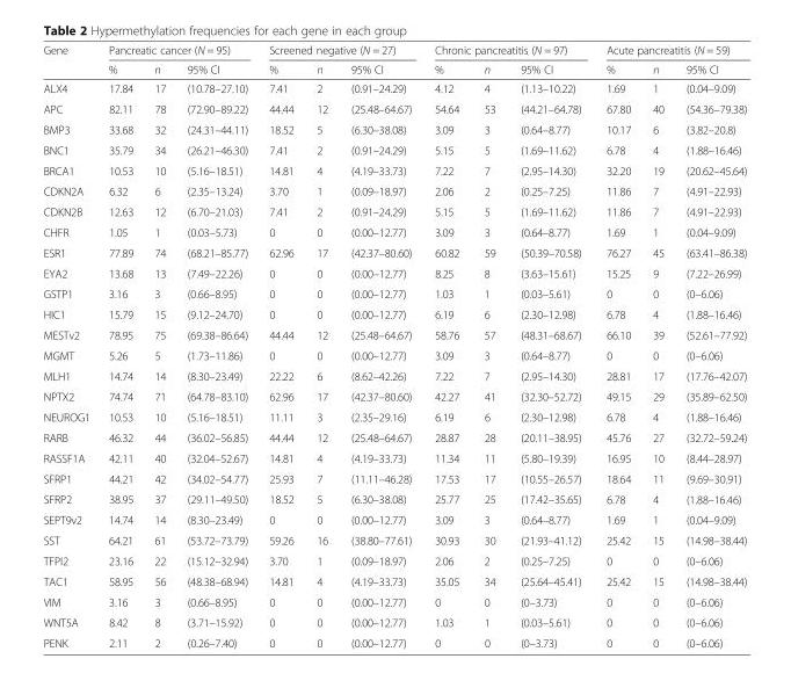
<table><thead><tr><td rowspan="2">Gene</td><td colspan="3">Pancreatic cancer (N = 95)</td><td colspan="3">Screened negative (N = 27)</td><td colspan="3">Chronic pancreatitis (N = 97)</td><td colspan="3">Acute pancreatitis (N = 59)</td></tr><tr><td>%</td><td>n</td><td>95% CI</td><td>%</td><td>n</td><td>95% CI</td><td>%</td><td>n</td><td>95% CI</td><td>%</td><td>n</td><td>95% CI</td></tr></thead><tbody><tr><td>ALX4</td><td>17.84</td><td>17</td><td>(10.78–27.10)</td><td>7.41</td><td>2</td><td>(0.91–24.29)</td><td>4.12</td><td>4</td><td>(1.13–10.22)</td><td>1.69</td><td>1</td><td>(0.04–9.09)</td></tr><tr><td>APC</td><td>82.11</td><td>78</td><td>(72.90–89.22)</td><td>44.44</td><td>12</td><td>(25.48–64.67)</td><td>54.64</td><td>53</td><td>(44.21–64.78)</td><td>67.80</td><td>40</td><td>(54.36–79.38)</td></tr><tr><td>BMP3</td><td>33.68</td><td>32</td><td>(24.31–44.11)</td><td>18.52</td><td>5</td><td>(6.30–38.08)</td><td>3.09</td><td>3</td><td>(0.64–8.77)</td><td>10.17</td><td>6</td><td>(3.82–20.8)</td></tr><tr><td>BNC1</td><td>35.79</td><td>34</td><td>(26.21–46.30)</td><td>7.41</td><td>2</td><td>(0.91–24.29)</td><td>5.15</td><td>5</td><td>(1.69–11.62)</td><td>6.78</td><td>4</td><td>(1.88–16.46)</td></tr><tr><td>BRCA1</td><td>10.53</td><td>10</td><td>(5.16–18.51)</td><td>14.81</td><td>4</td><td>(4.19–33.73)</td><td>7.22</td><td>7</td><td>(2.95–14.30)</td><td>32.20</td><td>19</td><td>(20.62–45.64)</td></tr><tr><td>CDKN2A</td><td>6.32</td><td>6</td><td>(2.35–13.24)</td><td>3.70</td><td>1</td><td>(0.09–18.97)</td><td>2.06</td><td>2</td><td>(0.25–7.25)</td><td>11.86</td><td>7</td><td>(4.91–22.93)</td></tr><tr><td>CDKN2B</td><td>12.63</td><td>12</td><td>(6.70–21.03)</td><td>7.41</td><td>2</td><td>(0.91–24.29)</td><td>5.15</td><td>5</td><td>(1.69–11.62)</td><td>11.86</td><td>7</td><td>(4.91–22.93)</td></tr><tr><td>CHFR</td><td>1.05</td><td>1</td><td>(0.03–5.73)</td><td>0</td><td>0</td><td>(0.00–12.77)</td><td>3.09</td><td>3</td><td>(0.64–8.77)</td><td>1.69</td><td>1</td><td>(0.04–9.09)</td></tr><tr><td>ESR1</td><td>77.89</td><td>74</td><td>(68.21–85.77)</td><td>62.96</td><td>17</td><td>(42.37–80.60)</td><td>60.82</td><td>59</td><td>(50.39–70.58)</td><td>76.27</td><td>45</td><td>(63.41–86.38)</td></tr><tr><td>EYA2</td><td>13.68</td><td>13</td><td>(7.49–22.26)</td><td>0</td><td>0</td><td>(0.00–12.77)</td><td>8.25</td><td>8</td><td>(3.63–15.61)</td><td>15.25</td><td>9</td><td>(7.22–26.99)</td></tr><tr><td>GSTP1</td><td>3.16</td><td>3</td><td>(0.66–8.95)</td><td>0</td><td>0</td><td>(0.00–12.77)</td><td>1.03</td><td>1</td><td>(0.03–5.61)</td><td>0</td><td>0</td><td>(0–6.06)</td></tr><tr><td>HIC1</td><td>15.79</td><td>15</td><td>(9.12–24.70)</td><td>0</td><td>0</td><td>(0.00–12.77)</td><td>6.19</td><td>6</td><td>(2.30–12.98)</td><td>6.78</td><td>4</td><td>(1.88–16.46)</td></tr><tr><td>MESTv2</td><td>78.95</td><td>75</td><td>(69.38–86.64)</td><td>44.44</td><td>12</td><td>(25.48–64.67)</td><td>58.76</td><td>57</td><td>(48.31–68.67)</td><td>66.10</td><td>39</td><td>(52.61–77.92)</td></tr><tr><td>MGMT</td><td>5.26</td><td>5</td><td>(1.73–11.86)</td><td>0</td><td>0</td><td>(0.00–12.77)</td><td>3.09</td><td>3</td><td>(0.64–8.77)</td><td>0</td><td>0</td><td>(0–6.06)</td></tr><tr><td>MLH1</td><td>14.74</td><td>14</td><td>(8.30–23.49)</td><td>22.22</td><td>6</td><td>(8.62–42.26)</td><td>7.22</td><td>7</td><td>(2.95–14.30)</td><td>28.81</td><td>17</td><td>(17.76–42.07)</td></tr><tr><td>NPTX2</td><td>74.74</td><td>71</td><td>(64.78–83.10)</td><td>62.96</td><td>17</td><td>(42.37–80.60)</td><td>42.27</td><td>41</td><td>(32.30–52.72)</td><td>49.15</td><td>29</td><td>(35.89–62.50)</td></tr><tr><td>NEUROG1</td><td>10.53</td><td>10</td><td>(5.16–18.51)</td><td>11.11</td><td>3</td><td>(2.35–29.16)</td><td>6.19</td><td>6</td><td>(2.30–12.98)</td><td>6.78</td><td>4</td><td>(1.88–16.46)</td></tr><tr><td>RARB</td><td>46.32</td><td>44</td><td>(36.02–56.85)</td><td>44.44</td><td>12</td><td>(25.48–64.67)</td><td>28.87</td><td>28</td><td>(20.11–38.95)</td><td>45.76</td><td>27</td><td>(32.72–59.24)</td></tr><tr><td>RASSF1A</td><td>42.11</td><td>40</td><td>(32.04–52.67)</td><td>14.81</td><td>4</td><td>(4.19–33.73)</td><td>11.34</td><td>11</td><td>(5.80–19.39)</td><td>16.95</td><td>10</td><td>(8.44–28.97)</td></tr><tr><td>SFRP1</td><td>44.21</td><td>42</td><td>(34.02–54.77)</td><td>25.93</td><td>7</td><td>(11.11–46.28)</td><td>17.53</td><td>17</td><td>(10.55–26.57)</td><td>18.64</td><td>11</td><td>(9.69–30.91)</td></tr><tr><td>SFRP2</td><td>38.95</td><td>37</td><td>(29.11–49.50)</td><td>18.52</td><td>5</td><td>(6.30–38.08)</td><td>25.77</td><td>25</td><td>(17.42–35.65)</td><td>6.78</td><td>4</td><td>(1.88–16.46)</td></tr><tr><td>SEPT9v2</td><td>14.74</td><td>14</td><td>(8.30–23.49)</td><td>0</td><td>0</td><td>(0.00–12.77)</td><td>3.09</td><td>3</td><td>(0.64–8.77)</td><td>1.69</td><td>1</td><td>(0.04–9.09)</td></tr><tr><td>SST</td><td>64.21</td><td>61</td><td>(53.72–73.79)</td><td>59.26</td><td>16</td><td>(38.80–77.61)</td><td>30.93</td><td>30</td><td>(21.93–41.12)</td><td>25.42</td><td>15</td><td>(14.98–38.44)</td></tr><tr><td>TFPI2</td><td>23.16</td><td>22</td><td>(15.12–32.94)</td><td>3.70</td><td>1</td><td>(0.09–18.97)</td><td>2.06</td><td>2</td><td>(0.25–7.25)</td><td>0</td><td>0</td><td>(0–6.06)</td></tr><tr><td>TAC1</td><td>58.95</td><td>56</td><td>(48.38–68.94)</td><td>14.81</td><td>4</td><td>(4.19–33.73)</td><td>35.05</td><td>34</td><td>(25.64–45.41)</td><td>25.42</td><td>15</td><td>(14.98–38.44)</td></tr><tr><td>VIM</td><td>3.16</td><td>3</td><td>(0.66–8.95)</td><td>0</td><td>0</td><td>(0.00–12.77)</td><td>0</td><td>0</td><td>(0–3.73)</td><td>0</td><td>0</td><td>(0–6.06)</td></tr><tr><td>WNT5A</td><td>8.42</td><td>8</td><td>(3.71–15.92)</td><td>0</td><td>0</td><td>(0.00–12.77)</td><td>1.03</td><td>1</td><td>(0.03–5.61)</td><td>0</td><td>0</td><td>(0–6.06)</td></tr><tr><td>PENK</td><td>2.11</td><td>2</td><td>(0.26–7.40)</td><td>0</td><td>0</td><td>(0.00–12.77)</td><td>0</td><td>0</td><td>(0–3.73)</td><td>0</td><td>0</td><td>(0–6.06)</td></tr></tbody></table>